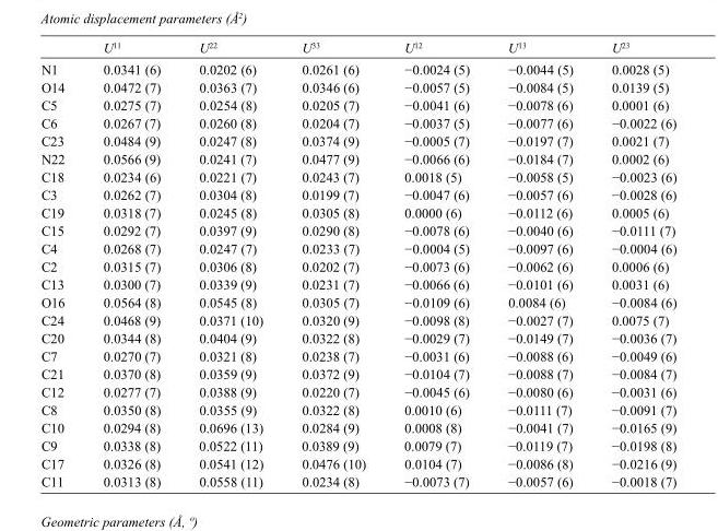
<table><thead><tr><td></td><td>U<sup>11</sup></td><td>U<sup>22</sup></td><td>U<sup>33</sup></td><td>U<sup>12</sup></td><td>U<sup>13</sup></td><td>U<sup>23</sup></td></tr></thead><tbody><tr><td>N1</td><td>0.0341 (6)</td><td>0.0202 (6)</td><td>0.0261 (6)</td><td>−0.0024 (5)</td><td>−0.0044 (5)</td><td>0.0028 (5)</td></tr><tr><td>O14</td><td>0.0472 (7)</td><td>0.0363 (7)</td><td>0.0346 (6)</td><td>−0.0057 (5)</td><td>−0.0084 (5)</td><td>0.0139 (5)</td></tr><tr><td>C5</td><td>0.0275 (7)</td><td>0.0254 (8)</td><td>0.0205 (7)</td><td>−0.0041 (6)</td><td>−0.0078 (6)</td><td>0.0001 (6)</td></tr><tr><td>C6</td><td>0.0267 (7)</td><td>0.0260 (8)</td><td>0.0204 (7)</td><td>−0.0037 (5)</td><td>−0.0077 (6)</td><td>−0.0022 (6)</td></tr><tr><td>C23</td><td>0.0484 (9)</td><td>0.0247 (8)</td><td>0.0374 (9)</td><td>−0.0005 (7)</td><td>−0.0197 (7)</td><td>0.0021 (7)</td></tr><tr><td>N22</td><td>0.0566 (9)</td><td>0.0241 (7)</td><td>0.0477 (9)</td><td>−0.0066 (6)</td><td>−0.0184 (7)</td><td>0.0002 (6)</td></tr><tr><td>C18</td><td>0.0234 (6)</td><td>0.0221 (7)</td><td>0.0243 (7)</td><td>0.0018 (5)</td><td>−0.0058 (5)</td><td>−0.0023 (6)</td></tr><tr><td>C3</td><td>0.0262 (7)</td><td>0.0304 (8)</td><td>0.0199 (7)</td><td>−0.0047 (6)</td><td>−0.0057 (6)</td><td>−0.0028 (6)</td></tr><tr><td>C19</td><td>0.0318 (7)</td><td>0.0245 (8)</td><td>0.0305 (8)</td><td>0.0000 (6)</td><td>−0.0112 (6)</td><td>0.0005 (6)</td></tr><tr><td>C15</td><td>0.0292 (7)</td><td>0.0397 (9)</td><td>0.0290 (8)</td><td>−0.0078 (6)</td><td>−0.0040 (6)</td><td>−0.0111 (7)</td></tr><tr><td>C4</td><td>0.0268 (7)</td><td>0.0247 (7)</td><td>0.0233 (7)</td><td>−0.0004 (5)</td><td>−0.0097 (6)</td><td>−0.0004 (6)</td></tr><tr><td>C2</td><td>0.0315 (7)</td><td>0.0306 (8)</td><td>0.0202 (7)</td><td>−0.0073 (6)</td><td>−0.0062 (6)</td><td>0.0006 (6)</td></tr><tr><td>C13</td><td>0.0300 (7)</td><td>0.0339 (9)</td><td>0.0231 (7)</td><td>−0.0066 (6)</td><td>−0.0101 (6)</td><td>0.0031 (6)</td></tr><tr><td>O16</td><td>0.0564 (8)</td><td>0.0545 (8)</td><td>0.0305 (7)</td><td>−0.0109 (6)</td><td>0.0084 (6)</td><td>−0.0084 (6)</td></tr><tr><td>C24</td><td>0.0468 (9)</td><td>0.0371 (10)</td><td>0.0320 (9)</td><td>−0.0098 (8)</td><td>−0.0027 (7)</td><td>0.0075 (7)</td></tr><tr><td>C20</td><td>0.0344 (8)</td><td>0.0404 (9)</td><td>0.0322 (8)</td><td>−0.0029 (7)</td><td>−0.0149 (7)</td><td>−0.0036 (7)</td></tr><tr><td>C7</td><td>0.0270 (7)</td><td>0.0321 (8)</td><td>0.0238 (7)</td><td>−0.0031 (6)</td><td>−0.0088 (6)</td><td>−0.0049 (6)</td></tr><tr><td>C21</td><td>0.0370 (8)</td><td>0.0359 (9)</td><td>0.0372 (9)</td><td>−0.0104 (7)</td><td>−0.0088 (7)</td><td>−0.0084 (7)</td></tr><tr><td>C12</td><td>0.0277 (7)</td><td>0.0388 (9)</td><td>0.0220 (7)</td><td>−0.0045 (6)</td><td>−0.0080 (6)</td><td>−0.0031 (6)</td></tr><tr><td>C8</td><td>0.0350 (8)</td><td>0.0355 (9)</td><td>0.0322 (8)</td><td>0.0010 (6)</td><td>−0.0111 (7)</td><td>−0.0091 (7)</td></tr><tr><td>C10</td><td>0.0294 (8)</td><td>0.0696 (13)</td><td>0.0284 (9)</td><td>0.0008 (8)</td><td>−0.0041 (7)</td><td>−0.0165 (9)</td></tr><tr><td>C9</td><td>0.0338 (8)</td><td>0.0522 (11)</td><td>0.0389 (9)</td><td>0.0079 (7)</td><td>−0.0119 (7)</td><td>−0.0198 (8)</td></tr><tr><td>C17</td><td>0.0326 (8)</td><td>0.0541 (12)</td><td>0.0476 (10)</td><td>0.0104 (7)</td><td>−0.0086 (8)</td><td>−0.0216 (9)</td></tr><tr><td>C11</td><td>0.0313 (8)</td><td>0.0558 (11)</td><td>0.0234 (8)</td><td>−0.0073 (7)</td><td>−0.0057 (6)</td><td>−0.0018 (7)</td></tr></tbody></table>